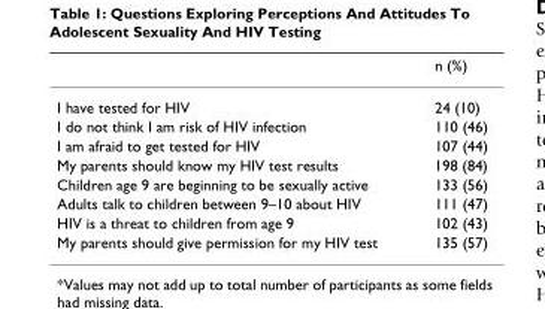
<table><thead><tr><td></td><td>n (%)</td></tr></thead><tbody><tr><td>I have tested for HIV</td><td>24 (10)</td></tr><tr><td>I do not think I am risk of HIV infection</td><td>110 (46)</td></tr><tr><td>I am afraid to get tested for HIV</td><td>107 (44)</td></tr><tr><td>My parents should know my HIV test results</td><td>198 (84)</td></tr><tr><td>Children age 9 are beginning to be sexually active</td><td>133 (56)</td></tr><tr><td>Adults talk to children between 9–10 about HIV</td><td>111 (47)</td></tr><tr><td>HIV is a threat to children from age 9</td><td>102 (43)</td></tr><tr><td>My parents should give permission for my HIV test</td><td>135 (57)</td></tr></tbody></table>